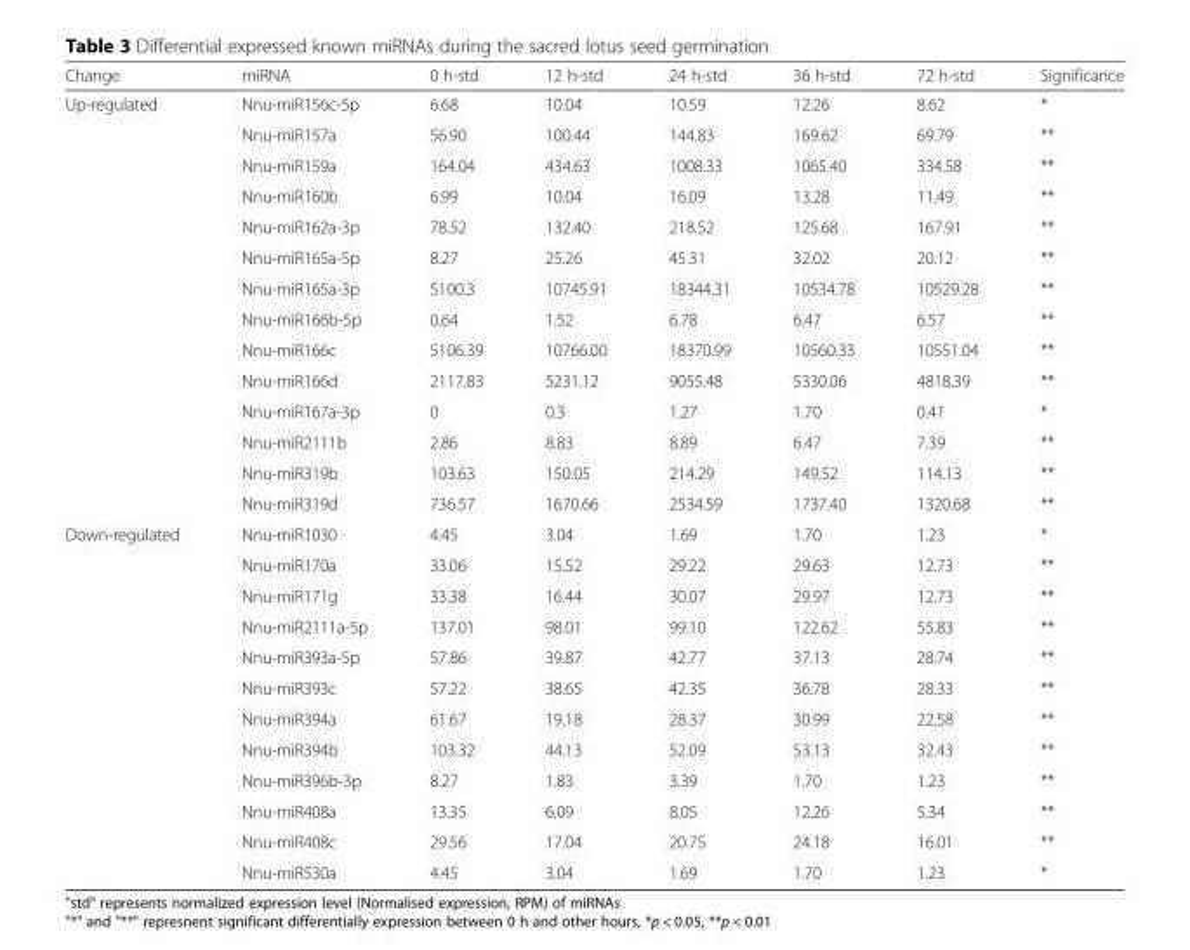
<table><thead><tr><td>Change</td><td>miRNA</td><td>0 h-std</td><td>12 h-std</td><td>24 h-std</td><td>36 h-std</td><td>72 h-std</td><td>Significance</td></tr></thead><tbody><tr><td rowspan="14">Up-regulated</td><td>Nnu-miR156c-5p</td><td>6.68</td><td>10.04</td><td>10.59</td><td>12.26</td><td>8.62</td><td>*</td></tr><tr><td>Nnu-miR157a</td><td>56.90</td><td>100.44</td><td>144.83</td><td>169.62</td><td>69.79</td><td>**</td></tr><tr><td>Nnu-miR159a</td><td>164.04</td><td>434.63</td><td>1008.33</td><td>1065.40</td><td>334.58</td><td>**</td></tr><tr><td>Nnu-miR160b</td><td>6.99</td><td>10.04</td><td>16.09</td><td>13.28</td><td>11.49</td><td>**</td></tr><tr><td>Nnu-miR162a-3p</td><td>78.52</td><td>132.40</td><td>218.52</td><td>125.68</td><td>167.91</td><td>**</td></tr><tr><td>Nnu-miR165a-5p</td><td>8.27</td><td>25.26</td><td>45.31</td><td>32.02</td><td>20.12</td><td>**</td></tr><tr><td>Nnu-miR165a-3p</td><td>5100.3</td><td>10745.91</td><td>18344.31</td><td>10534.78</td><td>10529.28</td><td>**</td></tr><tr><td>Nnu-miR166b-5p</td><td>0.64</td><td>1.52</td><td>6.78</td><td>6.47</td><td>6.57</td><td>**</td></tr><tr><td>Nnu-miR166c</td><td>5106.39</td><td>10766.00</td><td>18370.99</td><td>10560.33</td><td>10551.04</td><td>**</td></tr><tr><td>Nnu-miR166d</td><td>2117.83</td><td>5231.12</td><td>9055.48</td><td>5330.06</td><td>4818.39</td><td>**</td></tr><tr><td>Nnu-miR167a-3p</td><td>0</td><td>0.3</td><td>1.27</td><td>1.70</td><td>0.41</td><td>*</td></tr><tr><td>Nnu-miR2111b</td><td>2.86</td><td>8.83</td><td>8.89</td><td>6.47</td><td>7.39</td><td>**</td></tr><tr><td>Nnu-miR319b</td><td>103.63</td><td>150.05</td><td>214.29</td><td>149.52</td><td>114.13</td><td>**</td></tr><tr><td>Nnu-miR319d</td><td>736.57</td><td>1670.66</td><td>2534.59</td><td>1737.40</td><td>1320.68</td><td>**</td></tr><tr><td rowspan="12">Down-regulated</td><td>Nnu-miR1030</td><td>4.45</td><td>3.04</td><td>1.69</td><td>1.70</td><td>1.23</td><td>*</td></tr><tr><td>Nnu-miR170a</td><td>33.06</td><td>15.52</td><td>29.22</td><td>29.63</td><td>12.73</td><td>**</td></tr><tr><td>Nnu-miR171g</td><td>33.38</td><td>16.44</td><td>30.07</td><td>29.97</td><td>12.73</td><td>**</td></tr><tr><td>Nnu-miR2111a-5p</td><td>137.01</td><td>98.01</td><td>99.10</td><td>122.62</td><td>55.83</td><td>**</td></tr><tr><td>Nnu-miR393a-5p</td><td>57.86</td><td>39.87</td><td>42.77</td><td>37.13</td><td>28.74</td><td>**</td></tr><tr><td>Nnu-miR393c</td><td>57.22</td><td>38.65</td><td>42.35</td><td>36.78</td><td>28.33</td><td>**</td></tr><tr><td>Nnu-miR394a</td><td>61.67</td><td>19.18</td><td>28.37</td><td>30.99</td><td>22.58</td><td>**</td></tr><tr><td>Nnu-miR394b</td><td>103.32</td><td>44.13</td><td>52.09</td><td>53.13</td><td>32.43</td><td>**</td></tr><tr><td>Nnu-miR396b-3p</td><td>8.27</td><td>1.83</td><td>3.39</td><td>1.70</td><td>1.23</td><td>**</td></tr><tr><td>Nnu-miR408a</td><td>13.35</td><td>6.09</td><td>8.05</td><td>12.26</td><td>5.34</td><td>**</td></tr><tr><td>Nnu-miR408c</td><td>29.56</td><td>17.04</td><td>20.75</td><td>24.18</td><td>16.01</td><td>**</td></tr><tr><td>Nnu-miR530a</td><td>4.45</td><td>3.04</td><td>1.69</td><td>1.70</td><td>1.23</td><td>*</td></tr></tbody></table>